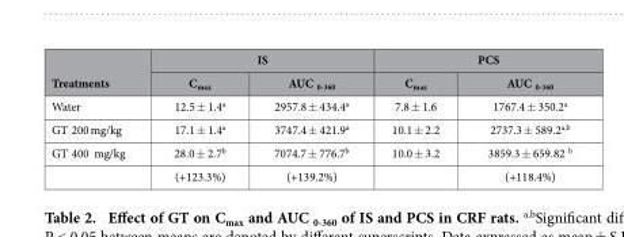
<table><thead><tr><td rowspan="2">Treatments</td><td colspan="2">IS</td><td colspan="2">PCS</td></tr><tr><td>C<sub>max</sub></td><td>AUC <sub>0-360</sub></td><td>C<sub>max</sub></td><td>AUC <sub>0-360</sub></td></tr></thead><tbody><tr><td>Water</td><td>12.5 ± 1.4<sup>a</sup></td><td>2957.8 ± 434.4<sup>a</sup></td><td>7.8 ± 1.6</td><td>1767.4 ± 350.2<sup>a</sup></td></tr><tr><td>GT 200 mg/kg</td><td>17.1 ± 1.4<sup>a</sup></td><td>3747.4 ± 421.9<sup>a</sup></td><td>10.1 ± 2.2</td><td>2737.3 ± 589.2<sup>a,b</sup></td></tr><tr><td rowspan="2">GT 400 mg/kg</td><td>28.0 ± 2.7<sup>b</sup></td><td>7074.7 ± 776.7<sup>b</sup></td><td>10.0 ± 3.2</td><td>3859.3 ± 659.82 <sup>b</sup></td></tr><tr><td>(+123.3%)</td><td>(+139.2%)</td><td></td><td>(+118.4%)</td></tr></tbody></table>